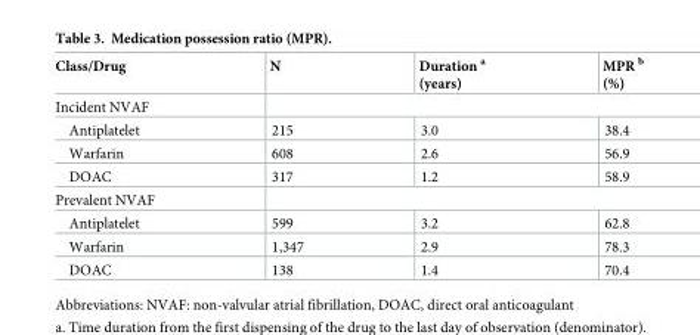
<table><thead><tr><td>Class/Drug</td><td>N</td><td>Duration <sup>a</sup> (years)</td><td>MPR <sup>b</sup> (%)</td></tr></thead><tbody><tr><td colspan="4">Incident NVAF</td></tr><tr><td>Antiplatelet</td><td>215</td><td>3.0</td><td>38.4</td></tr><tr><td>Warfarin</td><td>608</td><td>2.6</td><td>56.9</td></tr><tr><td>DOAC</td><td>317</td><td>1.2</td><td>58.9</td></tr><tr><td colspan="4">Prevalent NVAF</td></tr><tr><td>Antiplatelet</td><td>599</td><td>3.2</td><td>62.8</td></tr><tr><td>Warfarin</td><td>1,347</td><td>2.9</td><td>78.3</td></tr><tr><td>DOAC</td><td>138</td><td>1.4</td><td>70.4</td></tr></tbody></table>